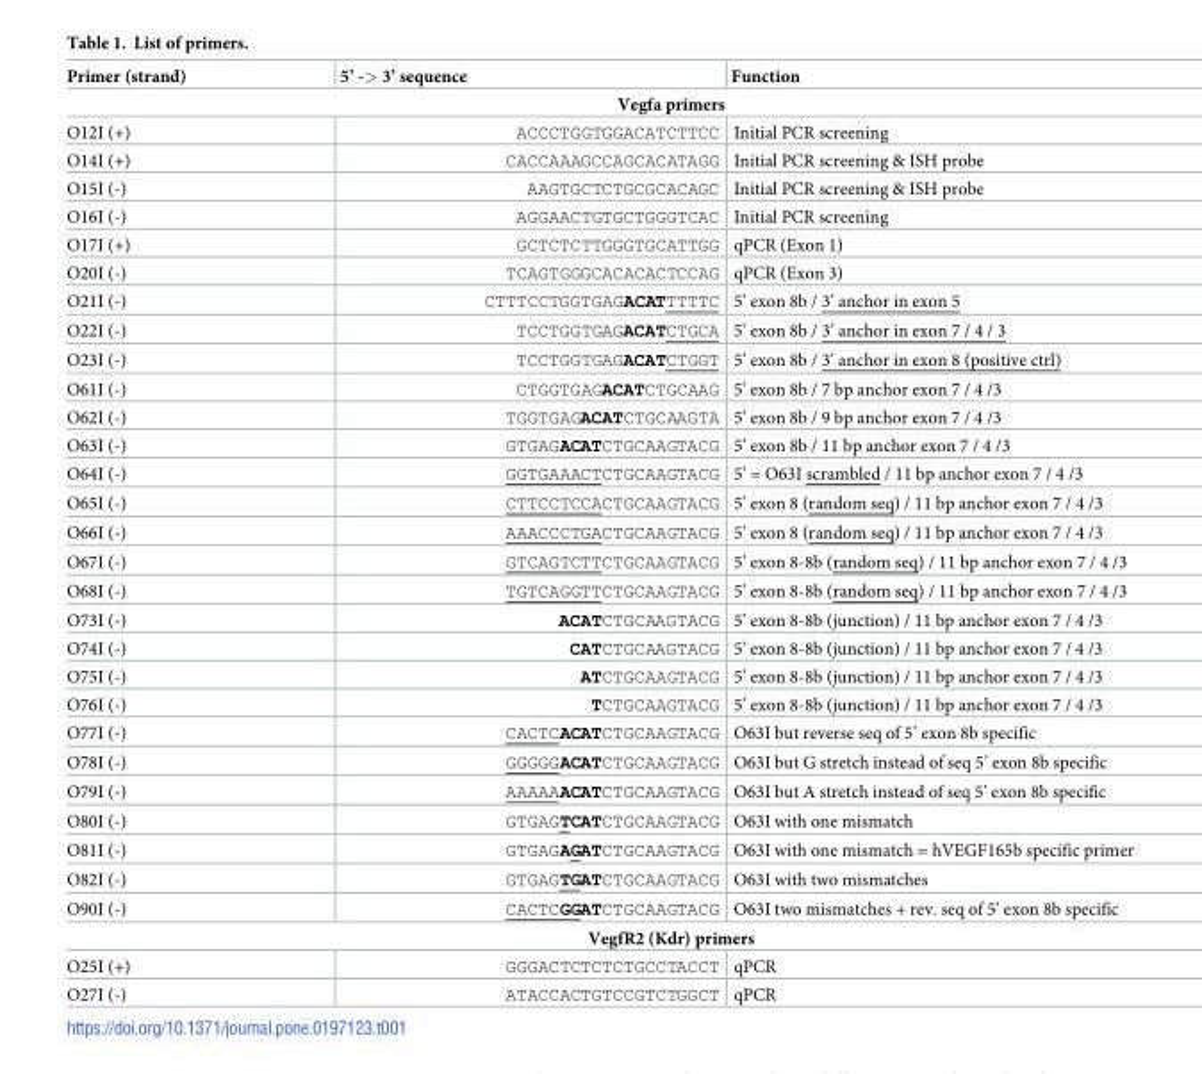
<table><thead><tr><td>Primer (strand)</td><td>5’ -&gt; 3’ sequence</td><td>Function</td></tr></thead><tbody><tr><td colspan="3">Vegfa primers</td></tr><tr><td>O12I (+)</td><td>ACCCTGGTGGACATCTTCC</td><td>Initial PCR screening</td></tr><tr><td>O14I (+)</td><td>CACCAAAGCCAGCACATAGG</td><td>Initial PCR screening &amp; ISH probe</td></tr><tr><td>O15I (-)</td><td>AAGTGCTCTGCGCACAGC</td><td>Initial PCR screening &amp; ISH probe</td></tr><tr><td>O16I (-)</td><td>AGGAACTGTGCTGGGTCAC</td><td>Initial PCR screening</td></tr><tr><td>O17I (+)</td><td>GCTCTCTTGGGTGCATTGG</td><td>qPCR (Exon 1)</td></tr><tr><td>O20I (-)</td><td>TCAGTGGGCACACACTCCAG</td><td>qPCR (Exon 3)</td></tr><tr><td>O21I (-)</td><td>CTTTCCTGGTGAGACATTTTTC</td><td>5’ exon 8b / 3’ anchor in exon 5</td></tr><tr><td>O22I (-)</td><td>TCCTGGTGAGACATCTGCA</td><td>5’ exon 8b / 3’ anchor in exon 7 / 4 / 3</td></tr><tr><td>O23I (-)</td><td>TCCTGGTGAGACATCTGGT</td><td>5’ exon 8b / 3’ anchor in exon 8 (positive ctrl)</td></tr><tr><td>O61I (-)</td><td>CTGGTGAGACATCTGCAAG</td><td>5’ exon 8b / 7 bp anchor exon 7 / 4 /3</td></tr><tr><td>O62I (-)</td><td>TGGTGAGACATCTGCAAGTA</td><td>5’ exon 8b / 9 bp anchor exon 7 / 4 /3</td></tr><tr><td>O63I (-)</td><td>GTGAGACATCTGCAAGTACG</td><td>5’ exon 8b / 11 bp anchor exon 7 / 4 /3</td></tr><tr><td>O64I (-)</td><td>GGTGAAACTCTGCAAGTACG</td><td>5’ = O63I scrambled / 11 bp anchor exon 7 / 4 /3</td></tr><tr><td>O65I (-)</td><td>CTTCCTCCACTGCAAGTACG</td><td>5’ exon 8 (random seq) / 11 bp anchor exon 7 / 4 /3</td></tr><tr><td>O66I (-)</td><td>AAACCCTGACTGCAAGTACG</td><td>5’ exon 8 (random seq) / 11 bp anchor exon 7 / 4 /3</td></tr><tr><td>O67I (-)</td><td>GTCAGTCTTCTGCAAGTACG</td><td>5’ exon 8-8b (random seq) / 11 bp anchor exon 7 / 4 /3</td></tr><tr><td>O68I (-)</td><td>TGTCAGGTTCTGCAAGTACG</td><td>5’ exon 8-8b (random seq) / 11 bp anchor exon 7 / 4 /3</td></tr><tr><td>O73I (-)</td><td>ACATCTGCAAGTACG</td><td>5’ exon 8-8b (junction) / 11 bp anchor exon 7 / 4 /3</td></tr><tr><td>O74I (-)</td><td>CATCTGCAAGTACG</td><td>5’ exon 8-8b (junction) / 11 bp anchor exon 7 / 4 /3</td></tr><tr><td>O75I (-)</td><td>ATCTGCAAGTACG</td><td>5’ exon 8-8b (junction) / 11 bp anchor exon 7 / 4 /3</td></tr><tr><td>O76I (-)</td><td>TCTGCAAGTACG</td><td>5’ exon 8-8b (junction) / 11 bp anchor exon 7 / 4 /3</td></tr><tr><td>O77I (-)</td><td>CACTCACATCTGCAAGTACG</td><td>O63I but reverse seq of 5’ exon 8b specific</td></tr><tr><td>O78I (-)</td><td>GGGGGACATCTGCAAGTACG</td><td>O63I but G stretch instead of seq 5’ exon 8b specific</td></tr><tr><td>O79I (-)</td><td>AAAAAACATCTGCAAGTACG</td><td>O63I but A stretch instead of seq 5’ exon 8b specific</td></tr><tr><td>O80I (-)</td><td>GTGAGTCATCTGCAAGTACG</td><td>O63I with one mismatch</td></tr><tr><td>O81I (-)</td><td>GTGAGAGATCTGCAAGTACG</td><td>O63I with one mismatch = hVEGF165b specific primer</td></tr><tr><td>O82I (-)</td><td>GTGAGTGATCTGCAAGTACG</td><td>O63I with two mismatches</td></tr><tr><td>O90I (-)</td><td>CACTCGGATCTGCAAGTACG</td><td>O63I two mismatches + rev. seq of 5’ exon 8b specific</td></tr><tr><td colspan="3">VegfR2 (Kdr) primers</td></tr><tr><td>O25I (+)</td><td>GGGACTCTCTCTGCCTACCT</td><td>qPCR</td></tr><tr><td>O27I (-)</td><td>ATACCACTGTCCGTCTGGCT</td><td>qPCR</td></tr></tbody></table>